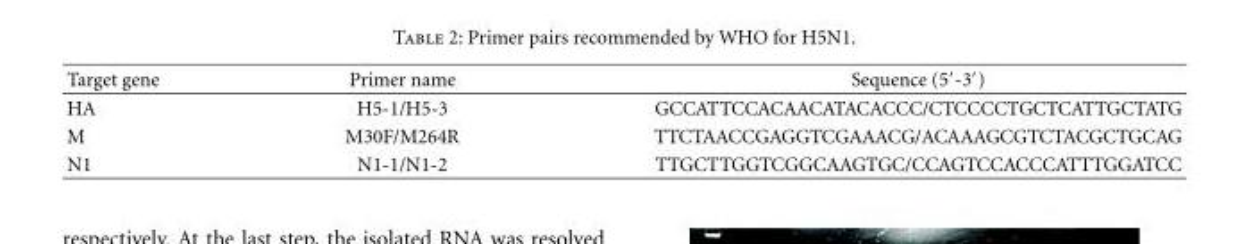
<table><thead><tr><td>Target gene</td><td>Primer name</td><td>Sequence (5′-3′)</td></tr></thead><tbody><tr><td>HA</td><td>H5-1/H5-3</td><td>GCCATTCCACAACATACACCC/CTCCCCTGCTCATTGCTATG</td></tr><tr><td>M</td><td>M30F/M264R</td><td>TTCTAACCGAGGTCGAAACG/ACAAAGCGTCTACGCTGCAG</td></tr><tr><td>N1</td><td>N1-1/N1-2</td><td>TTGCTTGGTCGGCAAGTGC/CCAGTCCACCCATTTGGATCC</td></tr></tbody></table>